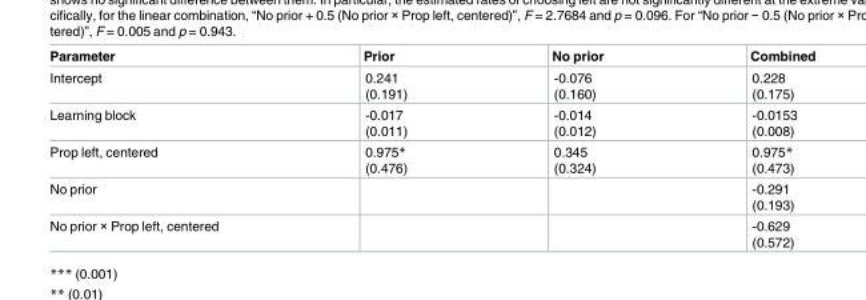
<table><thead><tr><td>Parameter</td><td>Prior</td><td>No prior</td><td>Combined</td></tr></thead><tbody><tr><td>Intercept</td><td>0.241 (0.191)</td><td>-0.076 (0.160)</td><td>0.228 (0.175)</td></tr><tr><td>Learning block</td><td>-0.017 (0.011)</td><td>-0.014 (0.012)</td><td>-0.0153 (0.008)</td></tr><tr><td>Prop left, centered</td><td>0.975* (0.476)</td><td>0.345 (0.324)</td><td>0.975* (0.473)</td></tr><tr><td>No prior</td><td></td><td></td><td>-0.291 (0.193)</td></tr><tr><td>No prior × Prop left, centered</td><td></td><td></td><td>-0.629 (0.572)</td></tr></tbody></table>